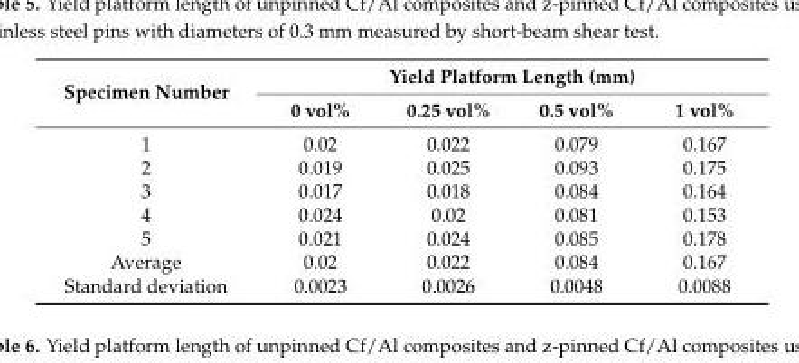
<table><thead><tr><td rowspan="2">Specimen Number</td><td colspan="4">Yield Platform Length (mm)</td></tr><tr><td>0 vol%</td><td>0.25 vol%</td><td>0.5 vol%</td><td>1 vol%</td></tr></thead><tbody><tr><td>1</td><td>0.02</td><td>0.022</td><td>0.079</td><td>0.167</td></tr><tr><td>2</td><td>0.019</td><td>0.025</td><td>0.093</td><td>0.175</td></tr><tr><td>3</td><td>0.017</td><td>0.018</td><td>0.084</td><td>0.164</td></tr><tr><td>4</td><td>0.024</td><td>0.02</td><td>0.081</td><td>0.153</td></tr><tr><td>5</td><td>0.021</td><td>0.024</td><td>0.085</td><td>0.178</td></tr><tr><td>Average</td><td>0.02</td><td>0.022</td><td>0.084</td><td>0.167</td></tr><tr><td>Standard deviation</td><td>0.0023</td><td>0.0026</td><td>0.0048</td><td>0.0088</td></tr></tbody></table>